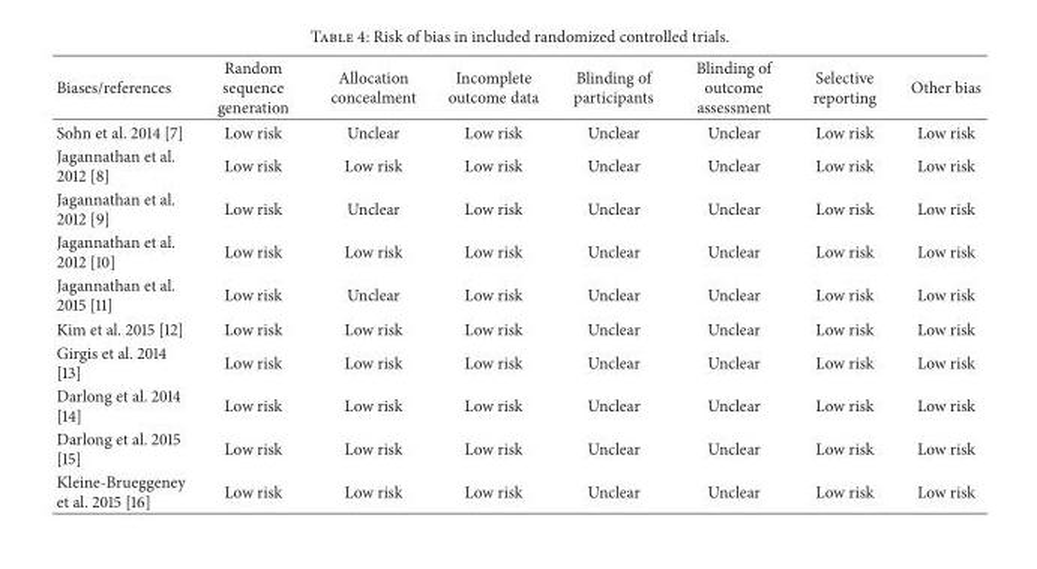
<table><thead><tr><td>Biases/references</td><td>Random sequence generation</td><td>Allocation concealment</td><td>Incomplete outcome data</td><td>Blinding of participants</td><td>Blinding of outcome assessment</td><td>Selective reporting</td><td>Other bias</td></tr></thead><tbody><tr><td>Sohn et al. 2014 [7]</td><td>Low risk</td><td>Unclear</td><td>Low risk</td><td>Unclear</td><td>Unclear</td><td>Low risk</td><td>Low risk</td></tr><tr><td>Jagannathan et al. 2012 [8]</td><td>Low risk</td><td>Low risk</td><td>Low risk</td><td>Unclear</td><td>Unclear</td><td>Low risk</td><td>Low risk</td></tr><tr><td>Jagannathan et al. 2012 [9]</td><td>Low risk</td><td>Unclear</td><td>Low risk</td><td>Unclear</td><td>Unclear</td><td>Low risk</td><td>Low risk</td></tr><tr><td>Jagannathan et al. 2012 [10]</td><td>Low risk</td><td>Low risk</td><td>Low risk</td><td>Unclear</td><td>Unclear</td><td>Low risk</td><td>Low risk</td></tr><tr><td>Jagannathan et al. 2015 [11]</td><td>Low risk</td><td>Unclear</td><td>Low risk</td><td>Unclear</td><td>Unclear</td><td>Low risk</td><td>Low risk</td></tr><tr><td>Kim et al. 2015 [12]</td><td>Low risk</td><td>Low risk</td><td>Low risk</td><td>Unclear</td><td>Unclear</td><td>Low risk</td><td>Low risk</td></tr><tr><td>Girgis et al. 2014 [13]</td><td>Low risk</td><td>Low risk</td><td>Low risk</td><td>Unclear</td><td>Unclear</td><td>Low risk</td><td>Low risk</td></tr><tr><td>Darlong et al. 2014 [14]</td><td>Low risk</td><td>Low risk</td><td>Low risk</td><td>Unclear</td><td>Unclear</td><td>Low risk</td><td>Low risk</td></tr><tr><td>Darlong et al. 2015 [15]</td><td>Low risk</td><td>Low risk</td><td>Low risk</td><td>Unclear</td><td>Unclear</td><td>Low risk</td><td>Low risk</td></tr><tr><td>Kleine-Brueggeney et al. 2015 [16]</td><td>Low risk</td><td>Low risk</td><td>Low risk</td><td>Unclear</td><td>Unclear</td><td>Low risk</td><td>Low risk</td></tr></tbody></table>